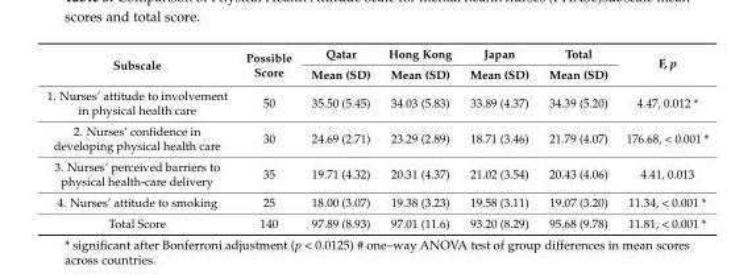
<table><thead><tr><td rowspan="2">Subscale</td><td rowspan="2">Possible Score</td><td rowspan="2">Qatar Mean (SD)</td><td rowspan="2">Hong Kong Mean (SD)</td><td rowspan="2">Japan Mean (SD)</td><td rowspan="2">Total Mean (SD)</td><td rowspan="2">F, p</td></tr><tr></tr></thead><tbody><tr><td>1. Nurses’ attitude to involvement in physical health care</td><td>50</td><td>35.50 (5.45)</td><td>34.03 (5.83)</td><td>33.89 (4.37)</td><td>34.39 (5.20)</td><td>4.47, 0.012 *</td></tr><tr><td>2. Nurses’ confidence in developing physical health care</td><td>30</td><td>24.69 (2.71)</td><td>23.29 (2.89)</td><td>18.71 (3.46)</td><td>21.79 (4.07)</td><td>176.68, &lt; 0.001 *</td></tr><tr><td>3. Nurses’ perceived barriers to physical health-care delivery</td><td>35</td><td>19.71 (4.32)</td><td>20.31 (4.37)</td><td>21.02 (3.54)</td><td>20.43 (4.06)</td><td>4.41, 0.013</td></tr><tr><td>4. Nurses’ attitude to smoking</td><td>25</td><td>18.00 (3.07)</td><td>19.38 (3.23)</td><td>19.58 (3.11)</td><td>19.07 (3.20)</td><td>11.34, &lt; 0.001 *</td></tr><tr><td>Total Score</td><td>140</td><td>97.89 (8.93)</td><td>97.01 (11.6)</td><td>93.20 (8.29)</td><td>95.68 (9.78)</td><td>11.81, &lt; 0.001 *</td></tr></tbody></table>